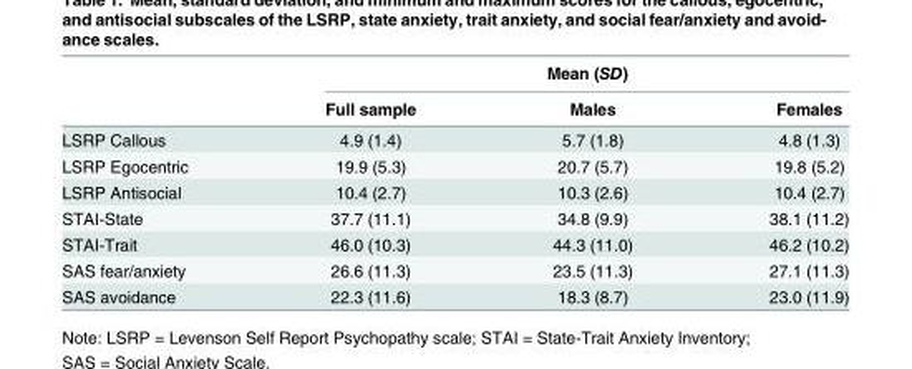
<table><thead><tr><td rowspan="2"></td><td colspan="3">Mean (SD)</td></tr><tr><td>Full sample</td><td>Males</td><td>Females</td></tr></thead><tbody><tr><td>LSRP Callous</td><td>4.9 (1.4)</td><td>5.7 (1.8)</td><td>4.8 (1.3)</td></tr><tr><td>LSRP Egocentric</td><td>19.9 (5.3)</td><td>20.7 (5.7)</td><td>19.8 (5.2)</td></tr><tr><td>LSRP Antisocial</td><td>10.4 (2.7)</td><td>10.3 (2.6)</td><td>10.4 (2.7)</td></tr><tr><td>STAI-State</td><td>37.7 (11.1)</td><td>34.8 (9.9)</td><td>38.1 (11.2)</td></tr><tr><td>STAI-Trait</td><td>46.0 (10.3)</td><td>44.3 (11.0)</td><td>46.2 (10.2)</td></tr><tr><td>SAS fear/anxiety</td><td>26.6 (11.3)</td><td>23.5 (11.3)</td><td>27.1 (11.3)</td></tr><tr><td>SAS avoidance</td><td>22.3 (11.6)</td><td>18.3 (8.7)</td><td>23.0 (11.9)</td></tr></tbody></table>